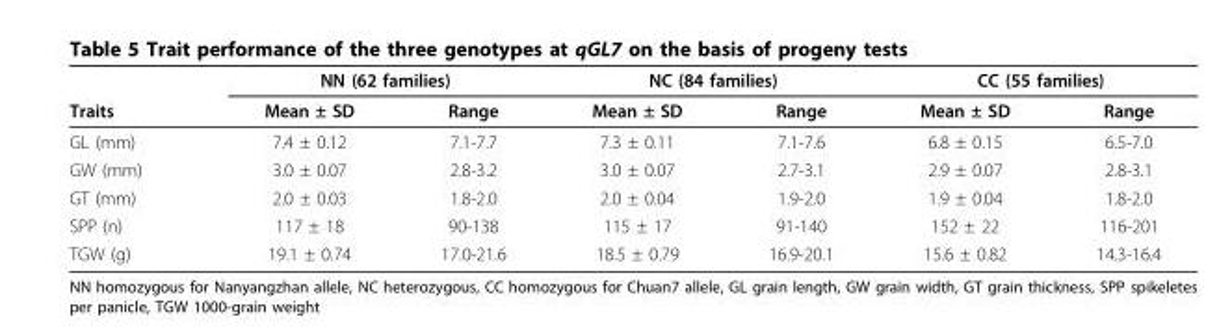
<table><thead><tr><td rowspan="2">Traits</td><td colspan="2">NN (62 families)</td><td colspan="2">NC (84 families)</td><td colspan="2">CC (55 families)</td></tr><tr><td>Mean ± SD</td><td>Range</td><td>Mean ± SD</td><td>Range</td><td>Mean ± SD</td><td>Range</td></tr></thead><tbody><tr><td>GL (mm)</td><td>7.4 ± 0.12</td><td>7.1-7.7</td><td>7.3 ± 0.11</td><td>7.1-7.6</td><td>6.8 ± 0.15</td><td>6.5-7.0</td></tr><tr><td>GW (mm)</td><td>3.0 ± 0.07</td><td>2.8-3.2</td><td>3.0 ± 0.07</td><td>2.7-3.1</td><td>2.9 ± 0.07</td><td>2.8-3.1</td></tr><tr><td>GT (mm)</td><td>2.0 ± 0.03</td><td>1.8-2.0</td><td>2.0 ± 0.04</td><td>1.9-2.0</td><td>1.9 ± 0.04</td><td>1.8-2.0</td></tr><tr><td>SPP (n)</td><td>117 ± 18</td><td>90-138</td><td>115 ± 17</td><td>91-140</td><td>152 ± 22</td><td>116-201</td></tr><tr><td>TGW (g)</td><td>19.1 ± 0.74</td><td>17.0-21.6</td><td>18.5 ± 0.79</td><td>16.9-20.1</td><td>15.6 ± 0.82</td><td>14.3-16.4</td></tr></tbody></table>